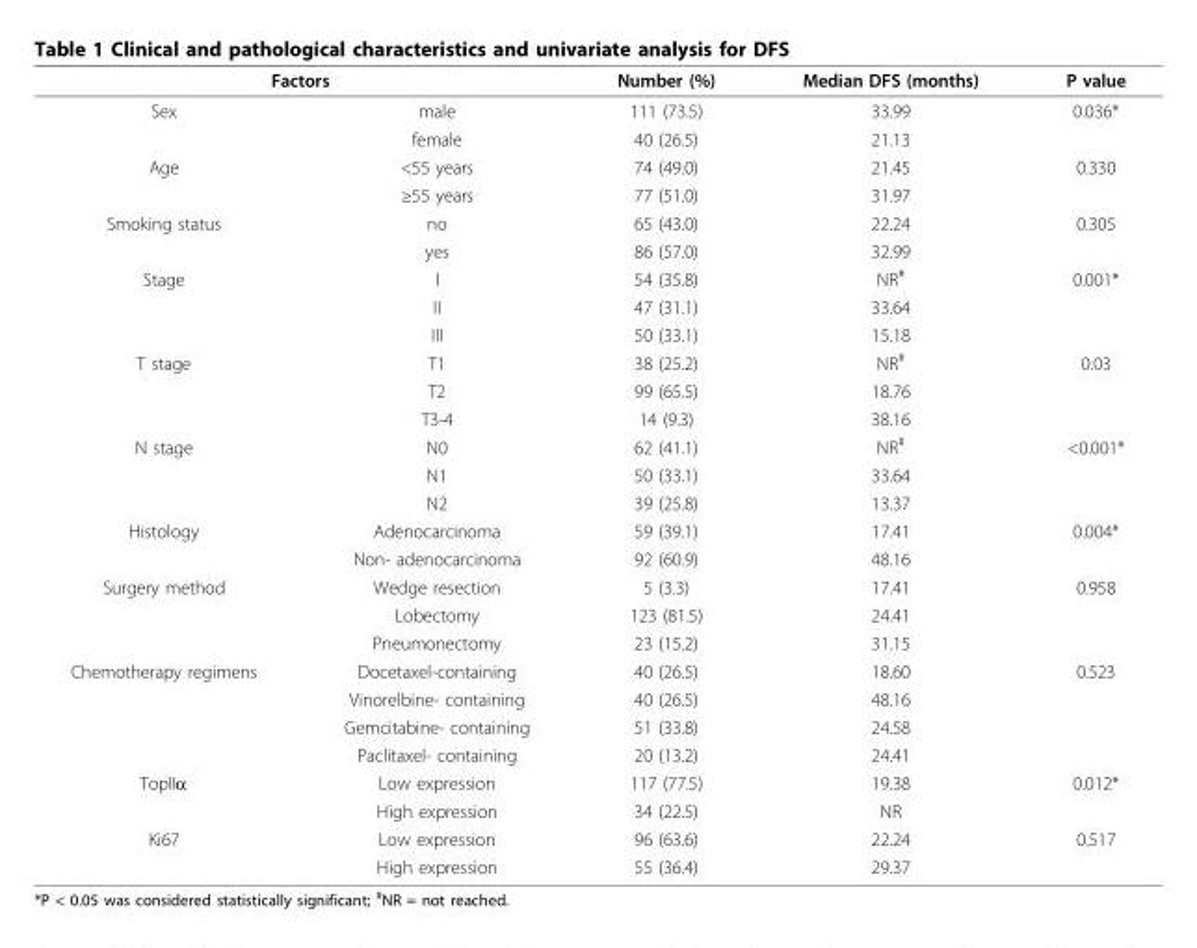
<table><thead><tr><td colspan="2">Factors</td><td rowspan="2">Number (%) 111 (73.5)</td><td rowspan="2">Median DFS (months) 33.99</td><td rowspan="2">P value 0.036*</td></tr><tr><td>Sex</td><td>male</td></tr></thead><tbody><tr><td></td><td>female</td><td>40 (26.5)</td><td>21.13</td><td></td></tr><tr><td rowspan="2">Age</td><td>&lt;55 years</td><td>74 (49.0)</td><td>21.45</td><td>0.330</td></tr><tr><td>≥55 years</td><td>77 (51.0)</td><td>31.97</td><td></td></tr><tr><td rowspan="2">Smoking status</td><td>no</td><td>65 (43.0)</td><td>22.24</td><td>0.305</td></tr><tr><td>yes</td><td>86 (57.0)</td><td>32.99</td><td></td></tr><tr><td rowspan="3">Stage</td><td>I</td><td>54 (35.8)</td><td>NR<sup>#</sup></td><td>0.001*</td></tr><tr><td>II</td><td>47 (31.1)</td><td>33.64</td><td></td></tr><tr><td>III</td><td>50 (33.1)</td><td>15.18</td><td></td></tr><tr><td rowspan="3">T stage</td><td>T1</td><td>38 (25.2)</td><td>NR<sup>#</sup></td><td>0.03</td></tr><tr><td>T2</td><td>99 (65.5)</td><td>18.76</td><td></td></tr><tr><td>T3-4</td><td>14 (9.3)</td><td>38.16</td><td></td></tr><tr><td rowspan="3">N stage</td><td>N0</td><td>62 (41.1)</td><td>NR<sup>#</sup></td><td>&lt;0.001*</td></tr><tr><td>N1</td><td>50 (33.1)</td><td>33.64</td><td></td></tr><tr><td>N2</td><td>39 (25.8)</td><td>13.37</td><td></td></tr><tr><td rowspan="2">Histology</td><td>Adenocarcinoma</td><td>59 (39.1)</td><td>17.41</td><td>0.004*</td></tr><tr><td>Non- adenocarcinoma</td><td>92 (60.9)</td><td>48.16</td><td></td></tr><tr><td rowspan="3">Surgery method</td><td>Wedge resection</td><td>5 (3.3)</td><td>17.41</td><td>0.958</td></tr><tr><td>Lobectomy</td><td>123 (81.5)</td><td>24.41</td><td></td></tr><tr><td>Pneumonectomy</td><td>23 (15.2)</td><td>31.15</td><td></td></tr><tr><td rowspan="4">Chemotherapy regimens</td><td>Docetaxel-containing</td><td>40 (26.5)</td><td>18.60</td><td>0.523</td></tr><tr><td>Vinorelbine- containing</td><td>40 (26.5)</td><td>48.16</td><td></td></tr><tr><td>Gemcitabine- containing</td><td>51 (33.8)</td><td>24.58</td><td></td></tr><tr><td>Paclitaxel- containing</td><td>20 (13.2)</td><td>24.41</td><td></td></tr><tr><td rowspan="2">TopIIα</td><td>Low expression</td><td>117 (77.5)</td><td>19.38</td><td>0.012*</td></tr><tr><td>High expression</td><td>34 (22.5)</td><td>NR</td><td></td></tr><tr><td rowspan="2">Ki67</td><td>Low expression</td><td>96 (63.6)</td><td>22.24</td><td>0.517</td></tr><tr><td>High expression</td><td>55 (36.4)</td><td>29.37</td><td></td></tr></tbody></table>